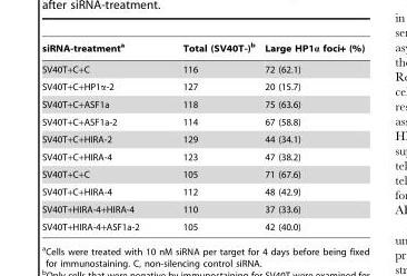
<table><thead><tr><td>siRNA-treatment<sup>a</sup></td><td>Total (SV40T-)<sup>b</sup></td><td>Large HP1α foci+ (%)</td></tr></thead><tbody><tr><td>SV40T+C+C</td><td>116</td><td>72 (62.1)</td></tr><tr><td>SV40T+C+HP1α-2</td><td>127</td><td>20 (15.7)</td></tr><tr><td>SV40T+C+ASF1a</td><td>118</td><td>75 (63.6)</td></tr><tr><td>SV40T+C+ASF1a-2</td><td>114</td><td>67 (58.8)</td></tr><tr><td>SV40T+C+HIRA-2</td><td>129</td><td>44 (34.1)</td></tr><tr><td>SV40T+C+HIRA-4</td><td>123</td><td>47 (38.2)</td></tr><tr><td>SV40T+C+C</td><td>105</td><td>71 (67.6)</td></tr><tr><td>SV40T+C+HIRA-4</td><td>112</td><td>48 (42.9)</td></tr><tr><td>SV40T+HIRA-4+HIRA-4</td><td>110</td><td>37 (33.6)</td></tr><tr><td>SV40T+HIRA-4+ASF1a-2</td><td>105</td><td>42 (40.0)</td></tr></tbody></table>